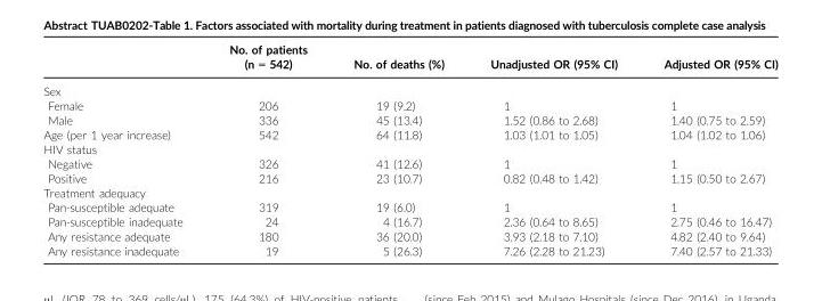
<table><thead><tr><td></td><td>No. of patients (n = 542)</td><td>No. of deaths (%)</td><td>Unadjusted OR (95% CI)</td><td>Adjusted OR (95% CI)</td></tr></thead><tbody><tr><td colspan="5">Sex</td></tr><tr><td>Female</td><td>206</td><td>19 (9.2)</td><td>1</td><td>1</td></tr><tr><td>Male</td><td>336</td><td>45 (13.4)</td><td>1.52 (0.86 to 2.68)</td><td>1.40 (0.75 to 2.59)</td></tr><tr><td>Age (per 1 year increase)</td><td>542</td><td>64 (11.8)</td><td>1.03 (1.01 to 1.05)</td><td>1.04 (1.02 to 1.06)</td></tr><tr><td colspan="5">HIV status</td></tr><tr><td>Negative</td><td>326</td><td>41 (12.6)</td><td>1</td><td>1</td></tr><tr><td>Positive</td><td>216</td><td>23 (10.7)</td><td>0.82 (0.48 to 1.42)</td><td>1.15 (0.50 to 2.67)</td></tr><tr><td colspan="5">Treatment adequacy</td></tr><tr><td>Pan-susceptible adequate</td><td>319</td><td>19 (6.0)</td><td>1</td><td>1</td></tr><tr><td>Pan-susceptible inadequate</td><td>24</td><td>4 (16.7)</td><td>2.36 (0.64 to 8.65)</td><td>2.75 (0.46 to 16.47)</td></tr><tr><td>Any resistance adequate</td><td>180</td><td>36 (20.0)</td><td>3.93 (2.18 to 7.10)</td><td>4.82 (2.40 to 9.64)</td></tr><tr><td>Any resistance inadequate</td><td>19</td><td>5 (26.3)</td><td>7.26 (2.28 to 21.23)</td><td>7.40 (2.57 to 21.33)</td></tr></tbody></table>